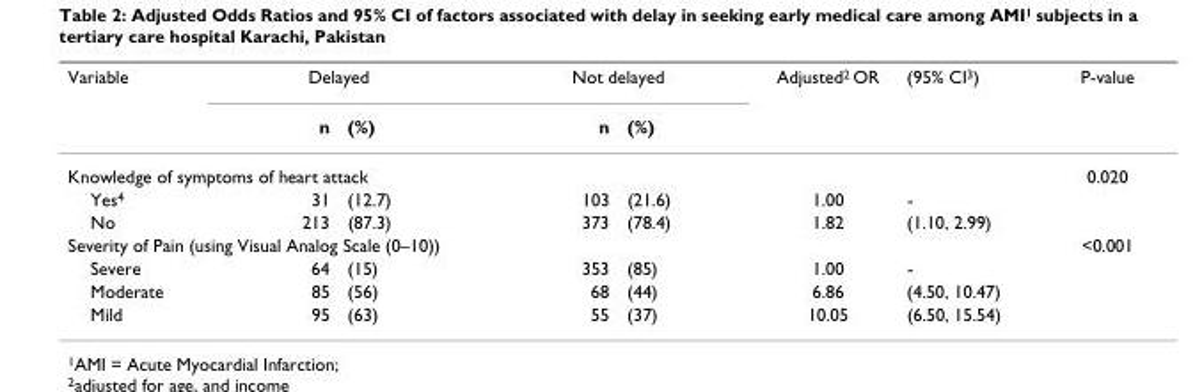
<table><thead><tr><td rowspan="2">Variable</td><td colspan="2">Delayed</td><td colspan="2">Not delayed</td><td rowspan="2">Adjusted<sup>2</sup> OR</td><td rowspan="2">(95% CI<sup>3</sup>)</td><td rowspan="2">P-value</td></tr><tr><td>n</td><td>(%)</td><td>n</td><td>(%)</td></tr></thead><tbody><tr><td colspan="7">Knowledge of symptoms of heart attack</td><td>0.020</td></tr><tr><td>Yes<sup>4</sup></td><td>31</td><td>(12.7)</td><td>103</td><td>(21.6)</td><td>1.00</td><td>-</td><td></td></tr><tr><td>No</td><td>213</td><td>(87.3)</td><td>373</td><td>(78.4)</td><td>1.82</td><td>(1.10, 2.99)</td><td></td></tr><tr><td colspan="7">Severity of Pain (using Visual Analog Scale (0–10))</td><td>&lt;0.001</td></tr><tr><td>Severe</td><td>64</td><td>(15)</td><td>353</td><td>(85)</td><td>1.00</td><td>-</td><td></td></tr><tr><td>Moderate</td><td>85</td><td>(56)</td><td>68</td><td>(44)</td><td>6.86</td><td>(4.50, 10.47)</td><td></td></tr><tr><td>Mild</td><td>95</td><td>(63)</td><td>55</td><td>(37)</td><td>10.05</td><td>(6.50, 15.54)</td><td></td></tr></tbody></table>